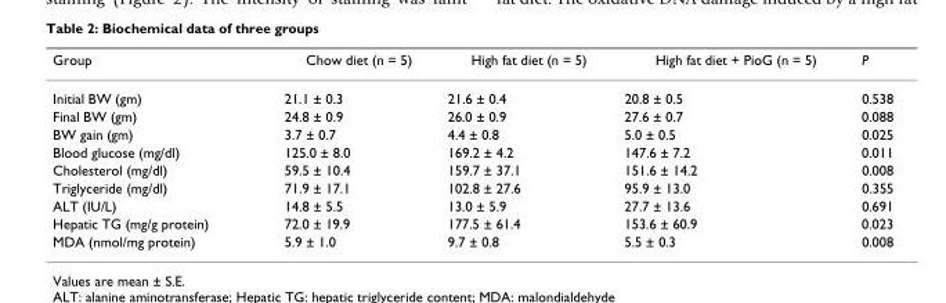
<table><thead><tr><td>Group</td><td>Chow diet (n = 5)</td><td>High fat diet (n = 5)</td><td>High fat diet + PioG (n = 5)</td><td>P</td></tr></thead><tbody><tr><td>Initial BW (gm)</td><td>21.1 ± 0.3</td><td>21.6 ± 0.4</td><td>20.8 ± 0.5</td><td>0.538</td></tr><tr><td>Final BW (gm)</td><td>24.8 ± 0.9</td><td>26.0 ± 0.9</td><td>27.6 ± 0.7</td><td>0.088</td></tr><tr><td>BW gain (gm)</td><td>3.7 ± 0.7</td><td>4.4 ± 0.8</td><td>5.0 ± 0.5</td><td>0.025</td></tr><tr><td>Blood glucose (mg/dl)</td><td>125.0 ± 8.0</td><td>169.2 ± 4.2</td><td>147.6 ± 7.2</td><td>0.011</td></tr><tr><td>Cholesterol (mg/dl)</td><td>59.5 ± 10.4</td><td>159.7 ± 37.1</td><td>151.6 ± 14.2</td><td>0.008</td></tr><tr><td>Triglyceride (mg/dl)</td><td>71.9 ± 17.1</td><td>102.8 ± 27.6</td><td>95.9 ± 13.0</td><td>0.355</td></tr><tr><td>ALT (IU/L)</td><td>14.8 ± 5.5</td><td>13.0 ± 5.9</td><td>27.7 ± 13.6</td><td>0.691</td></tr><tr><td>Hepatic TG (mg/g protein)</td><td>72.0 ± 19.9</td><td>177.5 ± 61.4</td><td>153.6 ± 60.9</td><td>0.023</td></tr><tr><td>MDA (nmol/mg protein)</td><td>5.9 ± 1.0</td><td>9.7 ± 0.8</td><td>5.5 ± 0.3</td><td>0.008</td></tr></tbody></table>